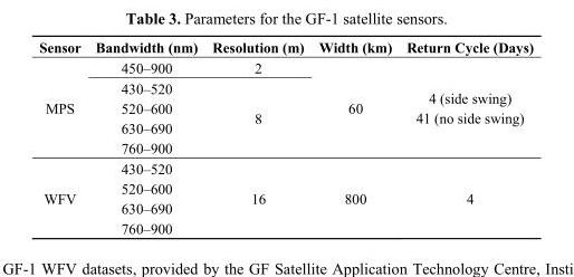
<table><thead><tr><td>Sensor</td><td>Bandwidth (nm)</td><td>Resolution (m)</td><td>Width (km)</td><td>Return Cycle (Days)</td></tr></thead><tbody><tr><td rowspan="5">MPS</td><td>450–900</td><td>2</td><td rowspan="5">60</td><td rowspan="5">4 (side swing) 41 (no side swing)</td></tr><tr><td>430–520</td><td rowspan="4">8</td></tr><tr><td>520–600</td></tr><tr><td>630–690</td></tr><tr><td>760–900</td></tr><tr><td rowspan="4">WFV</td><td>430–520</td><td rowspan="4">16</td><td rowspan="4">800</td><td rowspan="4">4</td></tr><tr><td>520–600</td></tr><tr><td>630–690</td></tr><tr><td>760–900</td></tr></tbody></table>